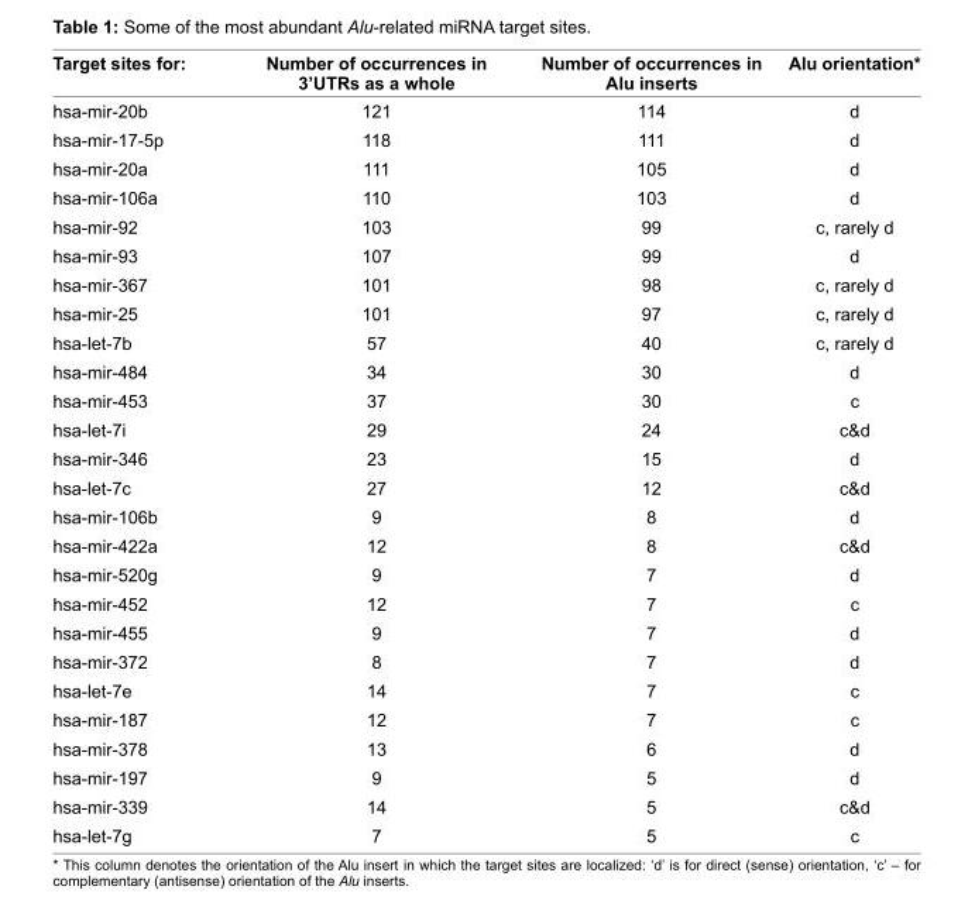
<table><thead><tr><td>Target sites for:</td><td>Number of occurrences in 3’UTRs as a whole</td><td>Number of occurrences in Alu inserts</td><td>Alu orientation*</td></tr></thead><tbody><tr><td>hsa-mir-20b</td><td>121</td><td>114</td><td>d</td></tr><tr><td>hsa-mir-17-5p</td><td>118</td><td>111</td><td>d</td></tr><tr><td>hsa-mir-20a</td><td>111</td><td>105</td><td>d</td></tr><tr><td>hsa-mir-106a</td><td>110</td><td>103</td><td>d</td></tr><tr><td>hsa-mir-92</td><td>103</td><td>99</td><td>c, rarely d</td></tr><tr><td>hsa-mir-93</td><td>107</td><td>99</td><td>d</td></tr><tr><td>hsa-mir-367</td><td>101</td><td>98</td><td>c, rarely d</td></tr><tr><td>hsa-mir-25</td><td>101</td><td>97</td><td>c, rarely d</td></tr><tr><td>hsa-let-7b</td><td>57</td><td>40</td><td>c, rarely d</td></tr><tr><td>hsa-mir-484</td><td>34</td><td>30</td><td>d</td></tr><tr><td>hsa-mir-453</td><td>37</td><td>30</td><td>c</td></tr><tr><td>hsa-let-7i</td><td>29</td><td>24</td><td>c&amp;d</td></tr><tr><td>hsa-mir-346</td><td>23</td><td>15</td><td>d</td></tr><tr><td>hsa-let-7c</td><td>27</td><td>12</td><td>c&amp;d</td></tr><tr><td>hsa-mir-106b</td><td>9</td><td>8</td><td>d</td></tr><tr><td>hsa-mir-422a</td><td>12</td><td>8</td><td>c&amp;d</td></tr><tr><td>hsa-mir-520g</td><td>9</td><td>7</td><td>d</td></tr><tr><td>hsa-mir-452</td><td>12</td><td>7</td><td>c</td></tr><tr><td>hsa-mir-455</td><td>9</td><td>7</td><td>d</td></tr><tr><td>hsa-mir-372</td><td>8</td><td>7</td><td>d</td></tr><tr><td>hsa-let-7e</td><td>14</td><td>7</td><td>c</td></tr><tr><td>hsa-mir-187</td><td>12</td><td>7</td><td>c</td></tr><tr><td>hsa-mir-378</td><td>13</td><td>6</td><td>d</td></tr><tr><td>hsa-mir-197</td><td>9</td><td>5</td><td>d</td></tr><tr><td>hsa-mir-339</td><td>14</td><td>5</td><td>c&amp;d</td></tr><tr><td>hsa-let-7g</td><td>7</td><td>5</td><td>c</td></tr></tbody></table>